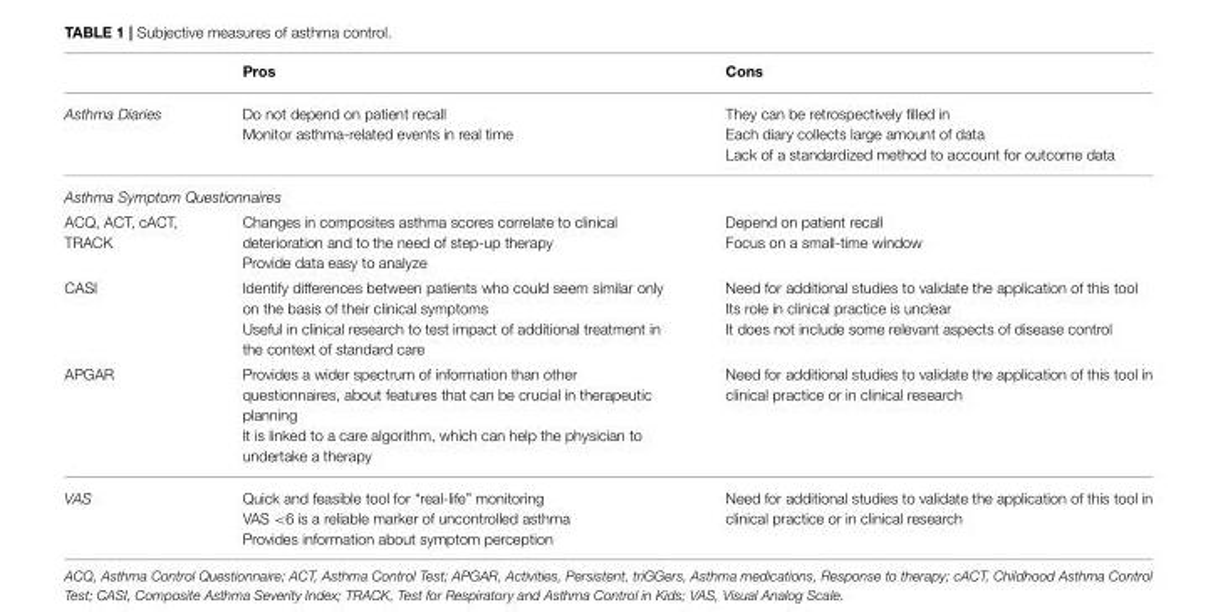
<table><thead><tr><td></td><td>Pros</td><td>Cons</td></tr></thead><tbody><tr><td>Asthma Diaries</td><td>Do not depend on patient recall Monitor asthma-related events in real time</td><td>They can be retrospectively filled in Each diary collects large amount of data Lack of a standardized method to account for outcome data</td></tr><tr><td colspan="3">Asthma Symptom Questionnaires</td></tr><tr><td>ACQ, ACT, cACT, TRACK</td><td>Changes in composites asthma scores correlate to clinical deterioration and to the need of step-up therapy Provide data easy to analyze</td><td>Depend on patient recall Focus on a small-time window</td></tr><tr><td>CASI</td><td>Identify differences between patients who could seem similar only on the basis of their clinical symptoms Useful in clinical research to test impact of additional treatment in the context of standard care</td><td>Need for additional studies to validate the application of this tool Its role in clinical practice is unclear It does not include some relevant aspects of disease control</td></tr><tr><td>APGAR</td><td>Provides a wider spectrum of information than other questionnaires, about features that can be crucial in therapeutic planning It is linked to a care algorithm, which can help the physician to undertake a therapy</td><td>Need for additional studies to validate the application of this tool in clinical practice or in clinical research</td></tr><tr><td>VAS</td><td>Quick and feasible tool for “real-life” monitoring VAS &lt;6 is a reliable marker of uncontrolled asthma Provides information about symptom perception</td><td>Need for additional studies to validate the application of this tool in clinical practice or in clinical research</td></tr></tbody></table>